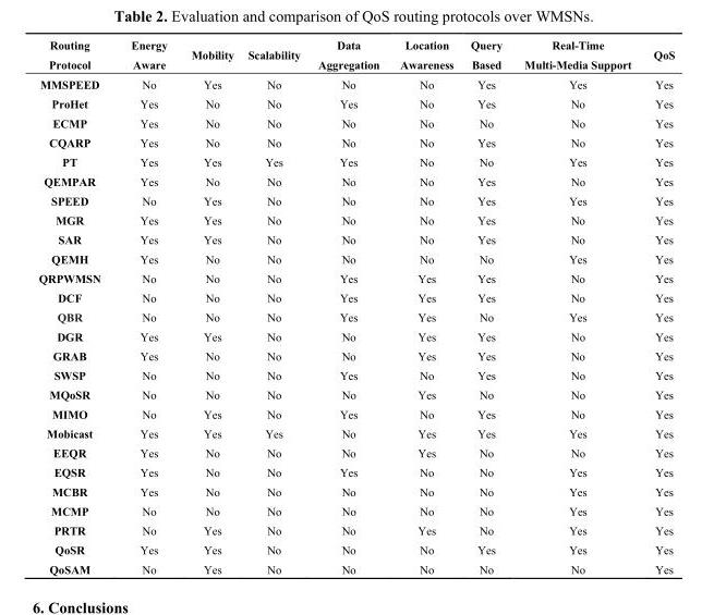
<table><thead><tr><td>Routing Protocol</td><td>Energy Aware</td><td>Mobility</td><td>Scalability</td><td>Data Aggregation</td><td>Location Awareness</td><td>Query Based</td><td>Real-Time Multi-Media Support</td><td>QoS</td></tr></thead><tbody><tr><td>MMSPEED</td><td>No</td><td>Yes</td><td>No</td><td>No</td><td>No</td><td>Yes</td><td>Yes</td><td>Yes</td></tr><tr><td>ProHet</td><td>Yes</td><td>No</td><td>No</td><td>Yes</td><td>No</td><td>Yes</td><td>No</td><td>Yes</td></tr><tr><td>ECMP</td><td>Yes</td><td>No</td><td>No</td><td>No</td><td>No</td><td>No</td><td>No</td><td>Yes</td></tr><tr><td>CQARP</td><td>Yes</td><td>No</td><td>No</td><td>No</td><td>No</td><td>Yes</td><td>No</td><td>Yes</td></tr><tr><td>PT</td><td>Yes</td><td>Yes</td><td>Yes</td><td>Yes</td><td>No</td><td>No</td><td>Yes</td><td>Yes</td></tr><tr><td>QEMPAR</td><td>Yes</td><td>No</td><td>No</td><td>No</td><td>No</td><td>Yes</td><td>No</td><td>Yes</td></tr><tr><td>SPEED</td><td>No</td><td>Yes</td><td>No</td><td>No</td><td>No</td><td>Yes</td><td>Yes</td><td>Yes</td></tr><tr><td>MGR</td><td>Yes</td><td>Yes</td><td>No</td><td>No</td><td>No</td><td>Yes</td><td>No</td><td>Yes</td></tr><tr><td>SAR</td><td>Yes</td><td>Yes</td><td>No</td><td>No</td><td>No</td><td>Yes</td><td>No</td><td>Yes</td></tr><tr><td>QEMH</td><td>Yes</td><td>No</td><td>No</td><td>No</td><td>No</td><td>No</td><td>Yes</td><td>Yes</td></tr><tr><td>QRPWMSN</td><td>No</td><td>No</td><td>No</td><td>Yes</td><td>Yes</td><td>Yes</td><td>No</td><td>Yes</td></tr><tr><td>DCF</td><td>No</td><td>No</td><td>No</td><td>Yes</td><td>Yes</td><td>Yes</td><td>No</td><td>Yes</td></tr><tr><td>QBR</td><td>No</td><td>No</td><td>No</td><td>Yes</td><td>Yes</td><td>No</td><td>Yes</td><td>Yes</td></tr><tr><td>DGR</td><td>Yes</td><td>Yes</td><td>No</td><td>No</td><td>Yes</td><td>Yes</td><td>No</td><td>Yes</td></tr><tr><td>GRAB</td><td>Yes</td><td>No</td><td>No</td><td>No</td><td>Yes</td><td>Yes</td><td>No</td><td>Yes</td></tr><tr><td>SWSP</td><td>No</td><td>No</td><td>No</td><td>Yes</td><td>No</td><td>Yes</td><td>No</td><td>Yes</td></tr><tr><td>MQoSR</td><td>No</td><td>No</td><td>No</td><td>No</td><td>Yes</td><td>No</td><td>No</td><td>Yes</td></tr><tr><td>MIMO</td><td>No</td><td>Yes</td><td>No</td><td>Yes</td><td>No</td><td>Yes</td><td>No</td><td>Yes</td></tr><tr><td>Mobicast</td><td>Yes</td><td>Yes</td><td>Yes</td><td>No</td><td>Yes</td><td>Yes</td><td>Yes</td><td>Yes</td></tr><tr><td>EEQR</td><td>Yes</td><td>No</td><td>No</td><td>No</td><td>Yes</td><td>No</td><td>No</td><td>Yes</td></tr><tr><td>EQSR</td><td>Yes</td><td>No</td><td>No</td><td>Yes</td><td>No</td><td>No</td><td>Yes</td><td>Yes</td></tr><tr><td>MCBR</td><td>Yes</td><td>No</td><td>No</td><td>No</td><td>No</td><td>No</td><td>Yes</td><td>Yes</td></tr><tr><td>MCMP</td><td>No</td><td>No</td><td>No</td><td>No</td><td>No</td><td>No</td><td>Yes</td><td>Yes</td></tr><tr><td>PRTR</td><td>No</td><td>Yes</td><td>No</td><td>No</td><td>Yes</td><td>No</td><td>Yes</td><td>Yes</td></tr><tr><td>QoSR</td><td>Yes</td><td>Yes</td><td>No</td><td>No</td><td>No</td><td>Yes</td><td>Yes</td><td>Yes</td></tr><tr><td>QoSAM</td><td>No</td><td>Yes</td><td>No</td><td>No</td><td>No</td><td>No</td><td>No</td><td>Yes</td></tr></tbody></table>